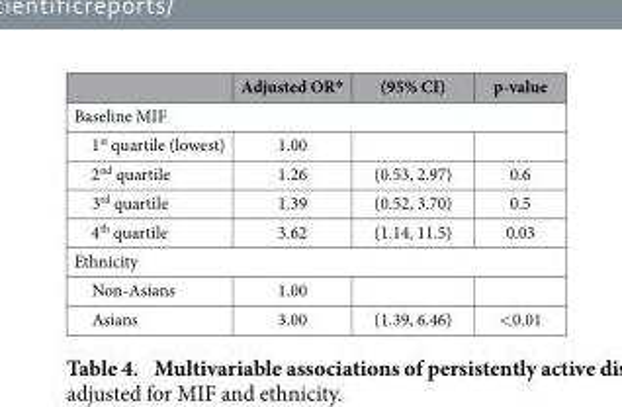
<table><thead><tr><td></td><td>Adjusted OR*</td><td>(95% CI)</td><td>p-value</td></tr></thead><tbody><tr><td colspan="4">Baseline MIF</td></tr><tr><td>1<sup>st</sup> quartile (lowest)</td><td>1.00</td><td></td><td></td></tr><tr><td>2<sup>nd</sup> quartile</td><td>1.26</td><td>(0.53, 2.97)</td><td>0.6</td></tr><tr><td>3<sup>rd</sup> quartile</td><td>1.39</td><td>(0.52, 3.70)</td><td>0.5</td></tr><tr><td>4<sup>th</sup> quartile</td><td>3.62</td><td>(1.14, 11.5)</td><td>0.03</td></tr><tr><td colspan="4">Ethnicity</td></tr><tr><td>Non-Asians</td><td>1.00</td><td></td><td></td></tr><tr><td>Asians</td><td>3.00</td><td>(1.39, 6.46)</td><td>&lt; 0.01</td></tr></tbody></table>